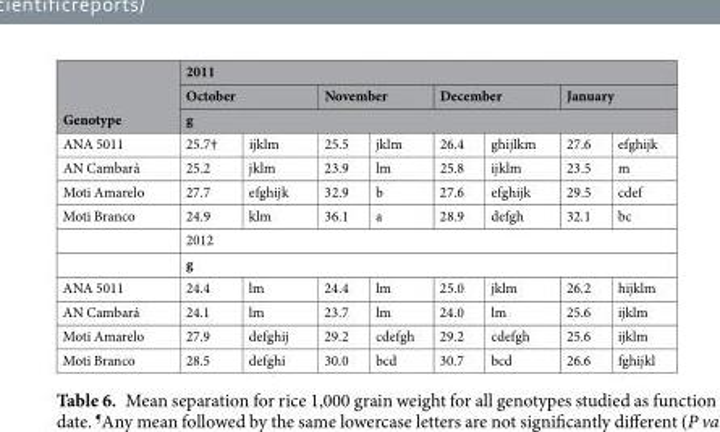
<table><thead><tr><td rowspan="4">Genotype ANA 5011</td><td colspan="8">2011</td></tr><tr><td colspan="2">October</td><td colspan="2">November</td><td colspan="2">December</td><td colspan="2">January</td></tr><tr><td colspan="8">g</td></tr><tr><td>25.7†</td><td>ijklm</td><td>25.5</td><td>jklm</td><td>26.4</td><td>ghijlkm</td><td>27.6</td><td>efghijk</td></tr></thead><tbody><tr><td>AN Cambará</td><td>25.2</td><td>jklm</td><td>23.9</td><td>lm</td><td>25.8</td><td>ijklm</td><td>23.5</td><td>m</td></tr><tr><td>Moti Amarelo</td><td>27.7</td><td>efghijk</td><td>32.9</td><td>b</td><td>27.6</td><td>efghijk</td><td>29.5</td><td>cdef</td></tr><tr><td rowspan="3">Moti Branco</td><td>24.9</td><td>klm</td><td>36.1</td><td>a</td><td>28.9</td><td>defgh</td><td>32.1</td><td>bc</td></tr><tr><td colspan="8">2012</td></tr><tr><td colspan="8">g</td></tr><tr><td>ANA 5011</td><td>24.4</td><td>lm</td><td>24.4</td><td>lm</td><td>25.0</td><td>jklm</td><td>26.2</td><td>hijklm</td></tr><tr><td>AN Cambará</td><td>24.1</td><td>lm</td><td>23.7</td><td>lm</td><td>24.0</td><td>lm</td><td>25.6</td><td>ijklm</td></tr><tr><td>Moti Amarelo</td><td>27.9</td><td>defghij</td><td>29.2</td><td>cdefgh</td><td>29.2</td><td>cdefgh</td><td>25.6</td><td>ijklm</td></tr><tr><td>Moti Branco</td><td>28.5</td><td>defghi</td><td>30.0</td><td>bcd</td><td>30.7</td><td>bcd</td><td>26.6</td><td>fghijkl</td></tr></tbody></table>